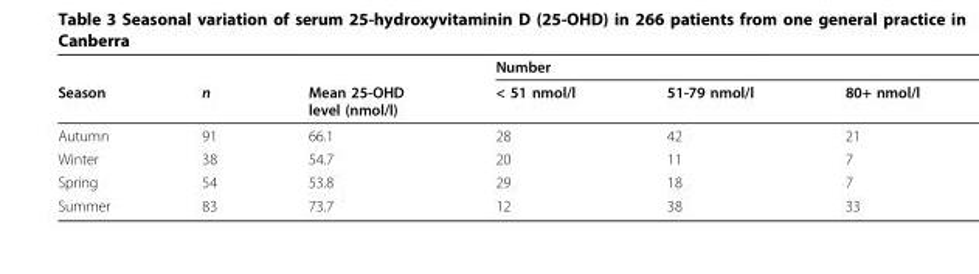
<table><thead><tr><td rowspan="2">Season</td><td rowspan="2">n</td><td rowspan="2">Mean 25-OHD level (nmol/l)</td><td colspan="3">Number</td></tr><tr><td>&lt; 51 nmol/l</td><td>51-79 nmol/l</td><td>80+ nmol/l</td></tr></thead><tbody><tr><td>Autumn</td><td>91</td><td>66.1</td><td>28</td><td>42</td><td>21</td></tr><tr><td>Winter</td><td>38</td><td>54.7</td><td>20</td><td>11</td><td>7</td></tr><tr><td>Spring</td><td>54</td><td>53.8</td><td>29</td><td>18</td><td>7</td></tr><tr><td>Summer</td><td>83</td><td>73.7</td><td>12</td><td>38</td><td>33</td></tr></tbody></table>